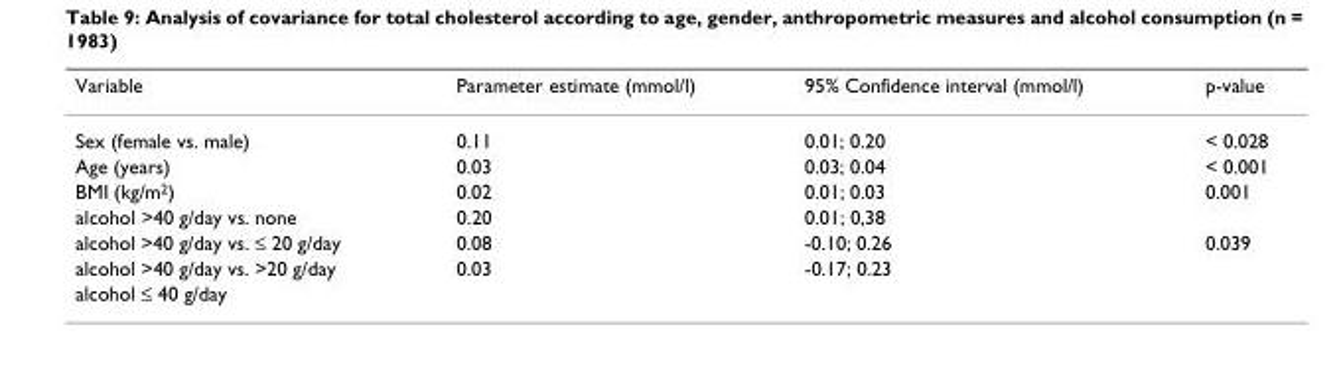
<table><thead><tr><td>Variable</td><td>Parameter estimate (mmol/l)</td><td>95% Confidence interval (mmol/l)</td><td>p-value</td></tr></thead><tbody><tr><td>Sex (female vs. male)</td><td>0.11</td><td>0.01; 0.20</td><td>&lt; 0.028</td></tr><tr><td>Age (years)</td><td>0.03</td><td>0.03; 0.04</td><td>&lt; 0.001</td></tr><tr><td>BMI (kg/m2)</td><td>0.02</td><td>0.01; 0.03</td><td>0.001</td></tr><tr><td>alcohol &gt;40 g/day vs. none</td><td>0.20</td><td>0.01; 0,38</td><td></td></tr><tr><td>alcohol &gt;40 g/day vs. ≤ 20 g/day</td><td>0.08</td><td>-0.10; 0.26</td><td>0.039</td></tr><tr><td>alcohol &gt;40 g/day vs. &gt;20 g/day</td><td>0.03</td><td>-0.17; 0.23</td><td></td></tr><tr><td>alcohol ≤ 40 g/day</td><td></td><td></td><td></td></tr></tbody></table>